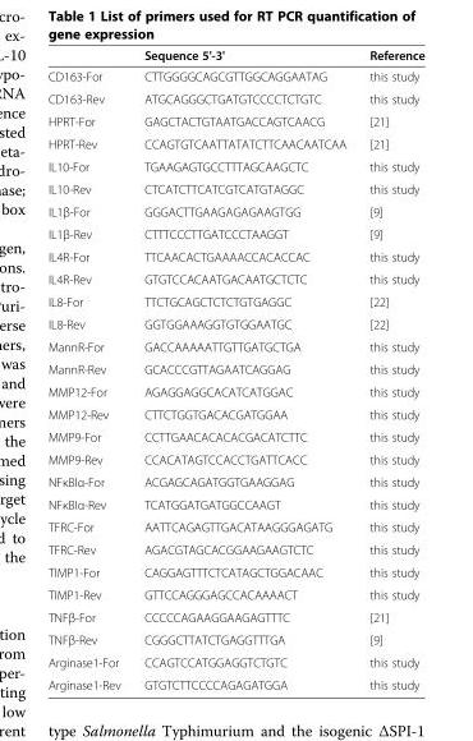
<table><thead><tr><td></td><td>Sequence 5&#x27;-3&#x27;</td><td>Reference</td></tr></thead><tbody><tr><td>CD163-For</td><td>CTTGGGGCAGCGTTGGCAGGAATAG</td><td>this study</td></tr><tr><td>CD163-Rev</td><td>ATGCAGGGCTGATGTCCCCTCTGTC</td><td>this study</td></tr><tr><td>HPRT-For</td><td>GAGCTACTGTAATGACCAGTCAACG</td><td>[21]</td></tr><tr><td>HPRT-Rev</td><td>CCAGTGTCAATTATATCTTCAACAATCAA</td><td>[21]</td></tr><tr><td>IL10-For</td><td>TGAAGAGTGCCTTTAGCAAGCTC</td><td>this study</td></tr><tr><td>IL10-Rev</td><td>CTCATCTTCATCGTCATGTAGGC</td><td>this study</td></tr><tr><td>IL1β-For</td><td>GGGACTTGAAGAGAGAAGTGG</td><td>[9]</td></tr><tr><td>IL1β-Rev</td><td>CTTTCCCTTGATCCCTAAGGT</td><td>[9]</td></tr><tr><td>IL4R-For</td><td>TTCAACACTGAAAACCACACCAC</td><td>this study</td></tr><tr><td>IL4R-Rev</td><td>GTGTCCACAATGACAATGCTCTC</td><td>this study</td></tr><tr><td>IL8-For</td><td>TTCTGCAGCTCTCTGTGAGGC</td><td>[22]</td></tr><tr><td>IL8-Rev</td><td>GGTGGAAAGGTGTGGAATGC</td><td>[22]</td></tr><tr><td>MannR-For</td><td>GACCAAAAATTGTTGATGCTGA</td><td>this study</td></tr><tr><td>MannR-Rev</td><td>GCACCCGTTAGAATCAGGAG</td><td>this study</td></tr><tr><td>MMP12-For</td><td>AGAGGAGGCACATCATGGAC</td><td>this study</td></tr><tr><td>MMP12-Rev</td><td>CTTCTGGTGACACGATGGAA</td><td>this study</td></tr><tr><td>MMP9-For</td><td>CCTTGAACACACACGACATCTTC</td><td>this study</td></tr><tr><td>MMP9-Rev</td><td>CCACATAGTCCACCTGATTCACC</td><td>this study</td></tr><tr><td>NFκBIα-For</td><td>ACGAGCAGATGGTGAAGGAG</td><td>this study</td></tr><tr><td>NFκBIα-Rev</td><td>TCATGGATGATGGCCAAGT</td><td>this study</td></tr><tr><td>TFRC-For</td><td>AATTCAGAGTTGACATAAGGGAGATG</td><td>this study</td></tr><tr><td>TFRC-Rev</td><td>AGACGTAGCACGGAAGAAGTCTC</td><td>this study</td></tr><tr><td>TIMP1-For</td><td>CAGGAGTTTCTCATAGCTGGACAAC</td><td>this study</td></tr><tr><td>TIMP1-Rev</td><td>GTTCCAGGGAGCCACAAAACT</td><td>this study</td></tr><tr><td>TNFβ-For</td><td>CCCCCAGAAGGAAGAGTTTC</td><td>[21]</td></tr><tr><td>TNFβ-Rev</td><td>CGGGCTTATCTGAGGTTTGA</td><td>[9]</td></tr><tr><td>Arginase1-For</td><td>CCAGTCCATGGAGGTCTGTC</td><td>this study</td></tr><tr><td>Arginase1-Rev</td><td>GTGTCTTCCCCAGAGATGGA</td><td>this study</td></tr></tbody></table>